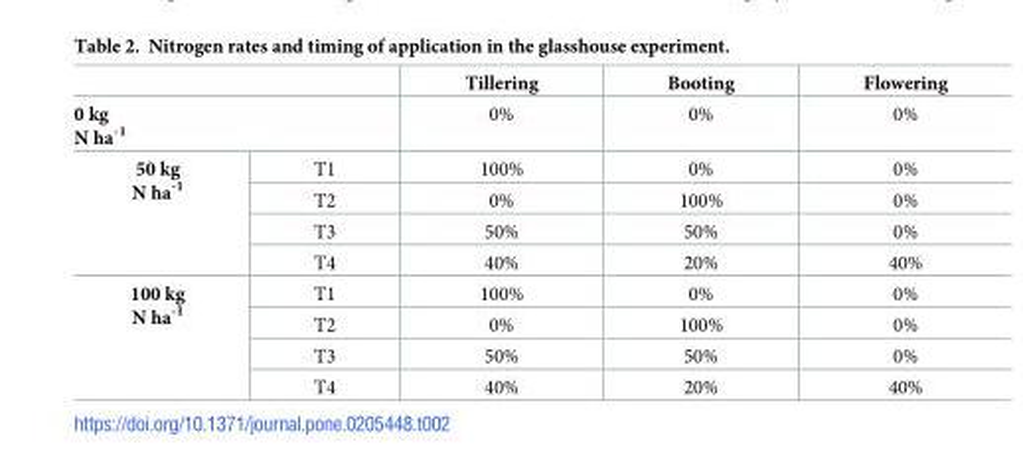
<table><thead><tr><td></td><td></td><td>Tillering</td><td>Booting</td><td>Flowering</td></tr></thead><tbody><tr><td colspan="2">0 kg N ha<sup>-1</sup></td><td>0%</td><td>0%</td><td>0%</td></tr><tr><td rowspan="4">50 kg N ha<sup>-1</sup></td><td>T1</td><td>100%</td><td>0%</td><td>0%</td></tr><tr><td>T2</td><td>0%</td><td>100%</td><td>0%</td></tr><tr><td>T3</td><td>50%</td><td>50%</td><td>0%</td></tr><tr><td>T4</td><td>40%</td><td>20%</td><td>40%</td></tr><tr><td rowspan="4">100 kg N ha<sup>-1</sup></td><td>T1</td><td>100%</td><td>0%</td><td>0%</td></tr><tr><td>T2</td><td>0%</td><td>100%</td><td>0%</td></tr><tr><td>T3</td><td>50%</td><td>50%</td><td>0%</td></tr><tr><td>T4</td><td>40%</td><td>20%</td><td>40%</td></tr></tbody></table>